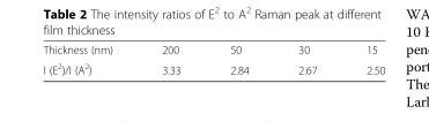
<table><tbody><tr><td>Thickness (nm)</td><td>200</td><td>50</td><td>30</td><td>15</td></tr><tr><td>I (E<sup>2</sup>)/I (A<sup>2</sup>)</td><td>3.33</td><td>2.84</td><td>2.67</td><td>2.50</td></tr></tbody></table>